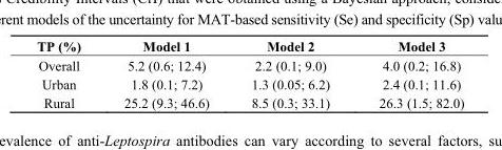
<table><thead><tr><td>TP (%)</td><td>Model 1</td><td>Model 2</td><td>Model 3</td></tr></thead><tbody><tr><td>Overall</td><td>5.2 (0.6; 12.4)</td><td>2.2 (0.1; 9.0)</td><td>4.0 (0.2; 16.8)</td></tr><tr><td>Urban</td><td>1.8 (0.1; 7.2)</td><td>1.3 (0.05; 6.2)</td><td>2.4 (0.1; 11.6)</td></tr><tr><td>Rural</td><td>25.2 (9.3; 46.6)</td><td>8.5 (0.3; 33.1)</td><td>26.3 (1.5; 82.0)</td></tr></tbody></table>